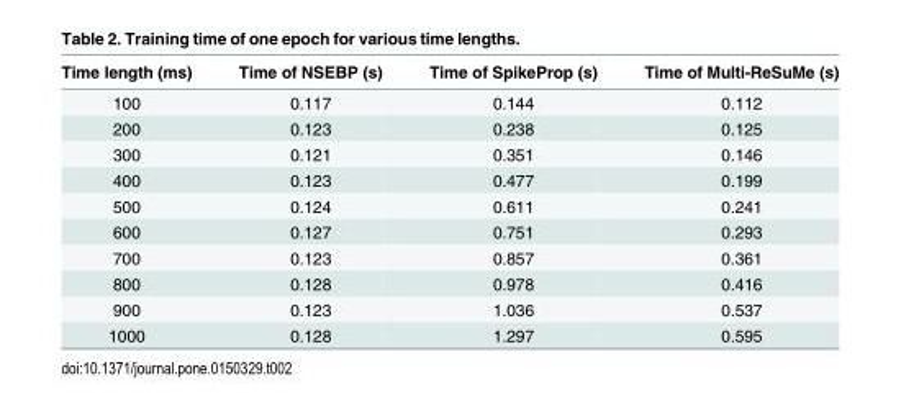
<table><thead><tr><td>Time length (ms)</td><td>Time of NSEBP (s)</td><td>Time of SpikeProp (s)</td><td>Time of Multi-ReSuMe (s)</td></tr></thead><tbody><tr><td>100</td><td>0.117</td><td>0.144</td><td>0.112</td></tr><tr><td>200</td><td>0.123</td><td>0.238</td><td>0.125</td></tr><tr><td>300</td><td>0.121</td><td>0.351</td><td>0.146</td></tr><tr><td>400</td><td>0.123</td><td>0.477</td><td>0.199</td></tr><tr><td>500</td><td>0.124</td><td>0.611</td><td>0.241</td></tr><tr><td>600</td><td>0.127</td><td>0.751</td><td>0.293</td></tr><tr><td>700</td><td>0.123</td><td>0.857</td><td>0.361</td></tr><tr><td>800</td><td>0.128</td><td>0.978</td><td>0.416</td></tr><tr><td>900</td><td>0.123</td><td>1.036</td><td>0.537</td></tr><tr><td>1000</td><td>0.128</td><td>1.297</td><td>0.595</td></tr></tbody></table>